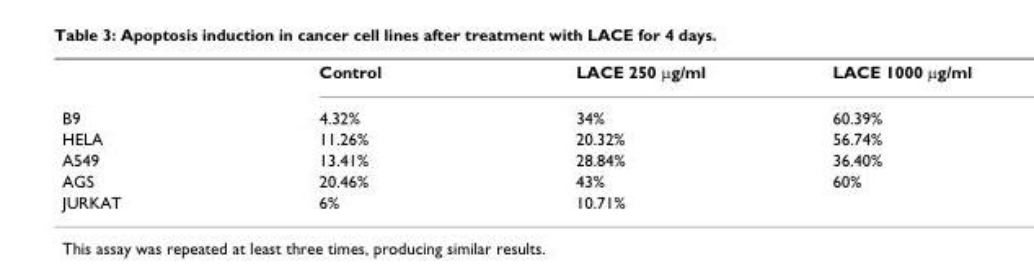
<table><thead><tr><td></td><td>Control</td><td>LACE 250 μg/ml</td><td>LACE 1000 μg/ml</td></tr></thead><tbody><tr><td>B9</td><td>4.32%</td><td>34%</td><td>60.39%</td></tr><tr><td>HELA</td><td>11.26%</td><td>20.32%</td><td>56.74%</td></tr><tr><td>A549</td><td>13.41%</td><td>28.84%</td><td>36.40%</td></tr><tr><td>AGS</td><td>20.46%</td><td>43%</td><td>60%</td></tr><tr><td>JURKAT</td><td>6%</td><td>10.71%</td><td></td></tr></tbody></table>